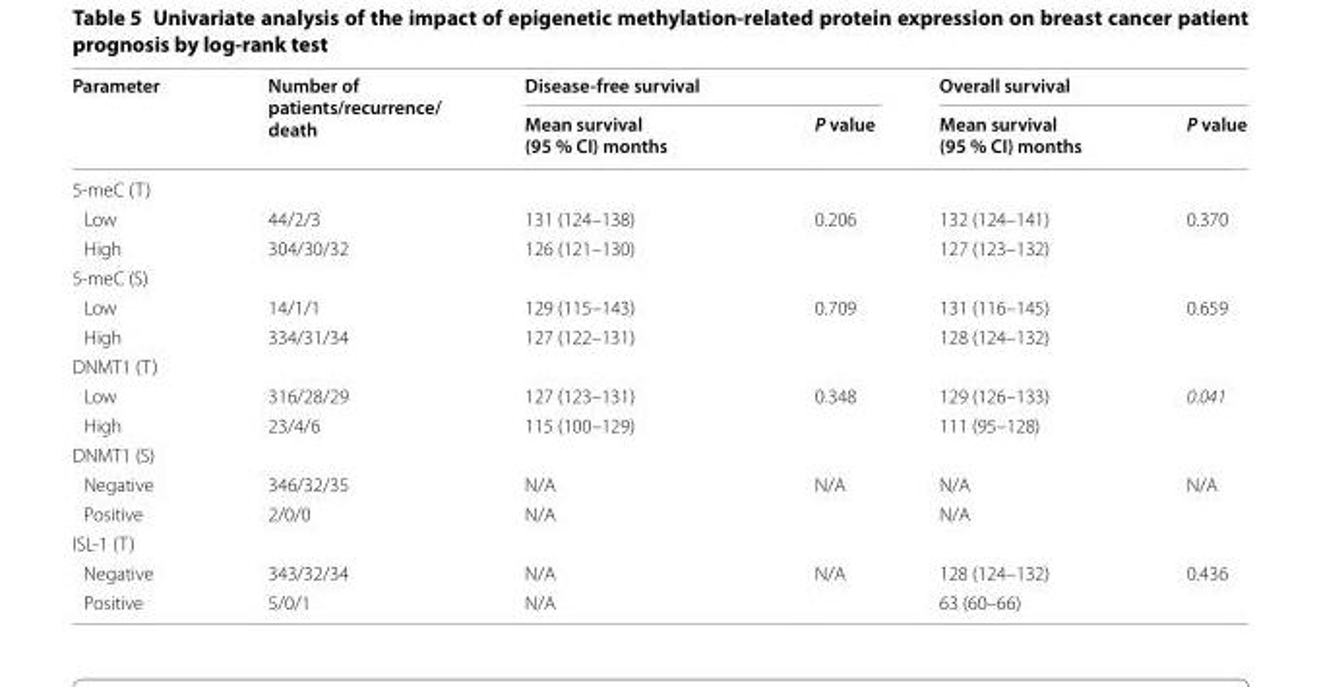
<table><thead><tr><td rowspan="2">Parameter</td><td rowspan="2">Number of patients/recurrence/ death</td><td colspan="2">Disease‑free survival</td><td colspan="2">Overall survival</td></tr><tr><td>Mean survival (95 % CI) months</td><td>P value</td><td>Mean survival (95 % CI) months</td><td>P value</td></tr></thead><tbody><tr><td colspan="6">5-meC (T)</td></tr><tr><td>Low</td><td>44/2/3</td><td>131 (124–138)</td><td rowspan="2">0.206</td><td>132 (124–141)</td><td rowspan="2">0.370</td></tr><tr><td>High</td><td>304/30/32</td><td>126 (121–130)</td><td>127 (123–132)</td></tr><tr><td colspan="6">5-meC (S)</td></tr><tr><td>Low</td><td>14/1/1</td><td>129 (115–143)</td><td rowspan="2">0.709</td><td>131 (116–145)</td><td rowspan="2">0.659</td></tr><tr><td>High</td><td>334/31/34</td><td>127 (122–131)</td><td>128 (124–132)</td></tr><tr><td colspan="6">DNMT1 (T)</td></tr><tr><td>Low</td><td>316/28/29</td><td>127 (123–131)</td><td rowspan="2">0.348</td><td>129 (126–133)</td><td rowspan="2">0.041</td></tr><tr><td>High</td><td>23/4/6</td><td>115 (100–129)</td><td>111 (95–128)</td></tr><tr><td colspan="6">DNMT1 (S)</td></tr><tr><td>Negative</td><td>346/32/35</td><td>N/A</td><td rowspan="2">N/A</td><td>N/A</td><td rowspan="2">N/A</td></tr><tr><td>Positive</td><td>2/0/0</td><td>N/A</td><td>N/A</td></tr><tr><td colspan="6">ISL-1 (T)</td></tr><tr><td>Negative</td><td>343/32/34</td><td>N/A</td><td rowspan="2">N/A</td><td>128 (124–132)</td><td rowspan="2">0.436</td></tr><tr><td>Positive</td><td>5/0/1</td><td>N/A</td><td>63 (60–66)</td></tr></tbody></table>